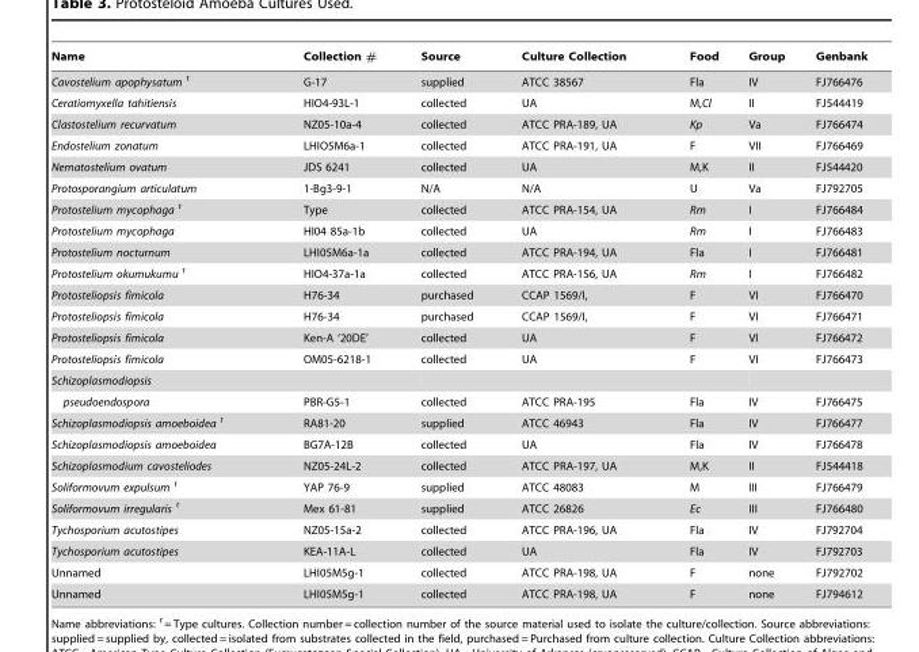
<table><thead><tr><td>Name</td><td>Collection #</td><td>Source</td><td>Culture Collection</td><td>Food</td><td>Group</td><td>Genbank</td></tr></thead><tbody><tr><td>Cavostelium apophysatum <sup>t</sup></td><td>G-17</td><td>supplied</td><td>ATCC 38567</td><td>Fla</td><td>IV</td><td>FJ766476</td></tr><tr><td>Ceratiomyxella tahitiensis</td><td>HIO4-93L-1</td><td>collected</td><td>UA</td><td>M,Cl</td><td>II</td><td>FJ544419</td></tr><tr><td>Clastostelium recurvatum</td><td>NZ05-10a-4</td><td>collected</td><td>ATCC PRA-189, UA</td><td>Kp</td><td>Va</td><td>FJ766474</td></tr><tr><td>Endostelium zonatum</td><td>LHIO5M6a-1</td><td>collected</td><td>ATCC PRA-191, UA</td><td>F</td><td>VII</td><td>FJ766469</td></tr><tr><td>Nematostelium ovatum</td><td>JDS 6241</td><td>collected</td><td>UA</td><td>M,K</td><td>II</td><td>FJ544420</td></tr><tr><td>Protosporangium articulatum</td><td>1-Bg3-9-1</td><td>N/A</td><td>N/A</td><td>U</td><td>Va</td><td>FJ792705</td></tr><tr><td>Protostelium mycophaga <sup>t</sup></td><td>Type</td><td>collected</td><td>ATCC PRA-154, UA</td><td>Rm</td><td>I</td><td>FJ766484</td></tr><tr><td>Protostelium mycophaga</td><td>HI04 85a-1b</td><td>collected</td><td>UA</td><td>Rm</td><td>I</td><td>FJ766483</td></tr><tr><td>Protostelium nocturnum</td><td>LHI05M6a-1a</td><td>collected</td><td>ATCC PRA-194, UA</td><td>Fla</td><td>I</td><td>FJ766481</td></tr><tr><td>Protostelium okumukumu <sup>t</sup></td><td>HIO4-37a-1a</td><td>collected</td><td>ATCC PRA-156, UA</td><td>Rm</td><td>I</td><td>FJ766482</td></tr><tr><td>Protosteliopsis fimicola</td><td>H76-34</td><td>purchased</td><td>CCAP 1569/I,</td><td>F</td><td>VI</td><td>FJ766470</td></tr><tr><td>Protosteliopsis fimicola</td><td>H76-34</td><td>purchased</td><td>CCAP 1569/I,</td><td>F</td><td>VI</td><td>FJ766471</td></tr><tr><td>Protosteliopsis fimicola</td><td>Ken-A ‘20DE’</td><td>collected</td><td>UA</td><td>F</td><td>VI</td><td>FJ766472</td></tr><tr><td>Protosteliopsis fimicola</td><td>OM05-6218-1</td><td>collected</td><td>UA</td><td>F</td><td>VI</td><td>FJ766473</td></tr><tr><td colspan="7">Schizoplasmodiopsis</td></tr><tr><td>pseudoendospora</td><td>PBR-G5-1</td><td>collected</td><td>ATCC PRA-195</td><td>Fla</td><td>IV</td><td>FJ766475</td></tr><tr><td>Schizoplasmodiopsis amoeboidea <sup>t</sup></td><td>RA81-20</td><td>supplied</td><td>ATCC 46943</td><td>Fla</td><td>IV</td><td>FJ766477</td></tr><tr><td>Schizoplasmodiopsis amoeboidea</td><td>BG7A-12B</td><td>collected</td><td>UA</td><td>Fla</td><td>IV</td><td>FJ766478</td></tr><tr><td>Schizoplasmodium cavosteliodes</td><td>NZ05-24L-2</td><td>collected</td><td>ATCC PRA-197, UA</td><td>M,K</td><td>II</td><td>FJ544418</td></tr><tr><td>Soliformovum expulsum <sup>t</sup></td><td>YAP 76-9</td><td>supplied</td><td>ATCC 48083</td><td>M</td><td>III</td><td>FJ766479</td></tr><tr><td>Soliformovum irregularis <sup>t</sup></td><td>Mex 61-81</td><td>supplied</td><td>ATCC 26826</td><td>Ec</td><td>III</td><td>FJ766480</td></tr><tr><td>Tychosporium acutostipes</td><td>NZ05-15a-2</td><td>collected</td><td>ATCC PRA-196, UA</td><td>Fla</td><td>IV</td><td>FJ792704</td></tr><tr><td>Tychosporium acutostipes</td><td>KEA-11A-L</td><td>collected</td><td>UA</td><td>Fla</td><td>IV</td><td>FJ792703</td></tr><tr><td>Unnamed</td><td>LHI05M5g-1</td><td>collected</td><td>ATCC PRA-198, UA</td><td>F</td><td>none</td><td>FJ792702</td></tr><tr><td>Unnamed</td><td>LHI05M5g-1</td><td>collected</td><td>ATCC PRA-198, UA</td><td>F</td><td>none</td><td>FJ794612</td></tr></tbody></table>